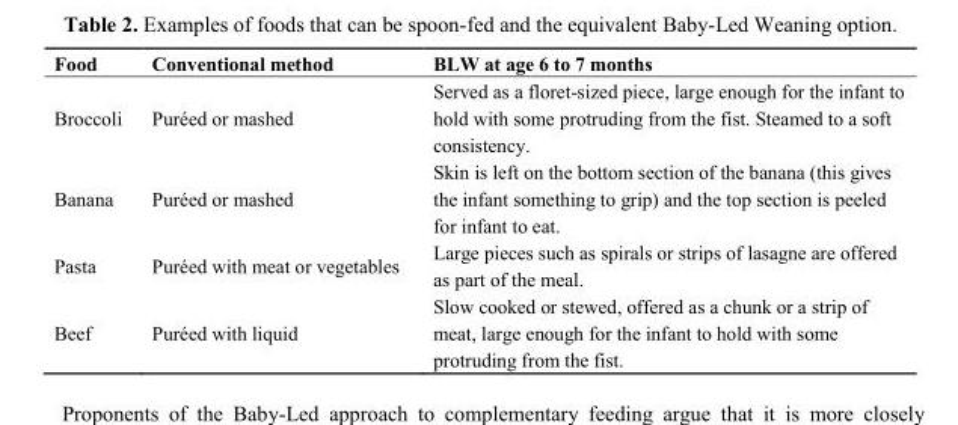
<table><thead><tr><td>Food</td><td>Conventional method</td><td>BLW at age 6 to 7 months</td></tr></thead><tbody><tr><td>Broccoli</td><td>Puréed or mashed</td><td>Served as a floret-sized piece, large enough for the infant to hold with some protruding from the fist. Steamed to a soft consistency.</td></tr><tr><td>Banana</td><td>Puréed or mashed</td><td>Skin is left on the bottom section of the banana (this gives the infant something to grip) and the top section is peeled for infant to eat.</td></tr><tr><td>Pasta</td><td>Puréed with meat or vegetables</td><td>Large pieces such as spirals or strips of lasagne are offered as part of the meal.</td></tr><tr><td>Beef</td><td>Puréed with liquid</td><td>Slow cooked or stewed, offered as a chunk or a strip of meat, large enough for the infant to hold with some protruding from the fist.</td></tr></tbody></table>